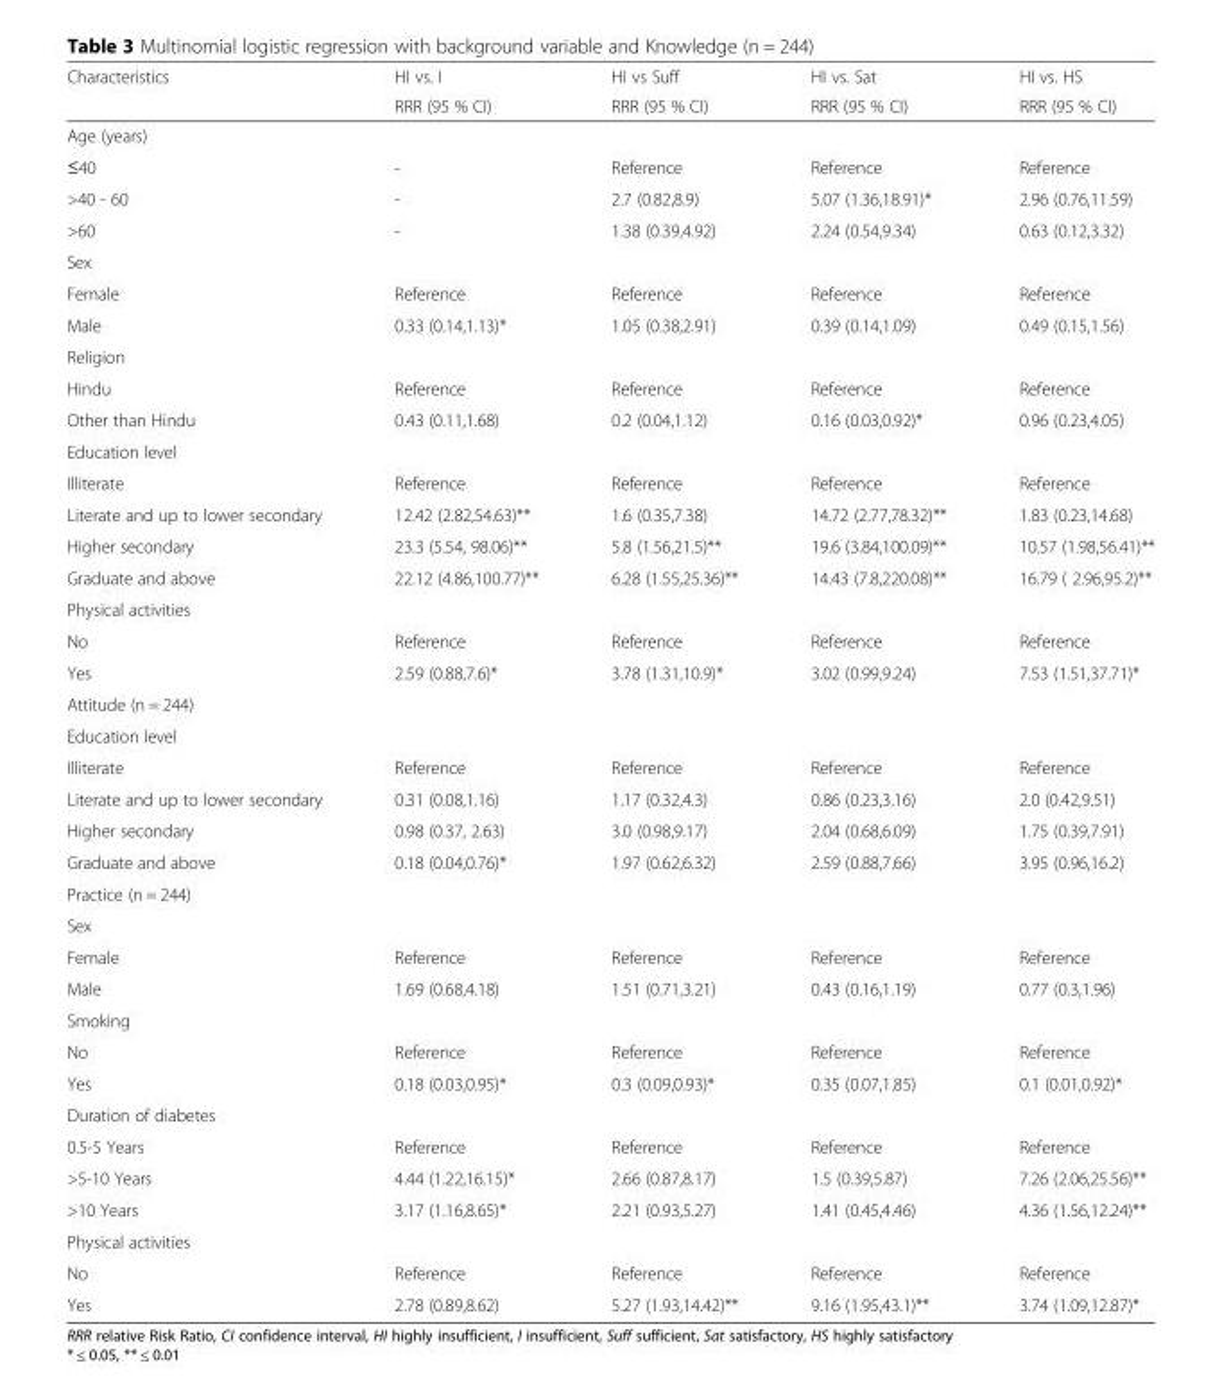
<table><thead><tr><td rowspan="2">Characteristics</td><td rowspan="2">HI vs. I RRR (95 % CI)</td><td rowspan="2">HI vs Suff RRR (95 % CI)</td><td rowspan="2">HI vs. Sat RRR (95 % CI)</td><td rowspan="2">HI vs. HS RRR (95 % CI)</td></tr><tr></tr></thead><tbody><tr><td colspan="5">Age (years)</td></tr><tr><td>≤40</td><td>-</td><td>Reference</td><td>Reference</td><td>Reference</td></tr><tr><td>&gt;40 - 60</td><td>-</td><td>2.7 (0.82,8.9)</td><td>5.07 (1.36,18.91)*</td><td>2.96 (0.76,11.59)</td></tr><tr><td>&gt;60</td><td>-</td><td>1.38 (0.39,4.92)</td><td>2.24 (0.54,9.34)</td><td>0.63 (0.12,3.32)</td></tr><tr><td colspan="5">Sex</td></tr><tr><td>Female</td><td>Reference</td><td>Reference</td><td>Reference</td><td>Reference</td></tr><tr><td>Male</td><td>0.33 (0.14,1.13)*</td><td>1.05 (0.38,2.91)</td><td>0.39 (0.14,1.09)</td><td>0.49 (0.15,1.56)</td></tr><tr><td colspan="5">Religion</td></tr><tr><td>Hindu</td><td>Reference</td><td>Reference</td><td>Reference</td><td>Reference</td></tr><tr><td>Other than Hindu</td><td>0.43 (0.11,1.68)</td><td>0.2 (0.04,1.12)</td><td>0.16 (0.03,0.92)*</td><td>0.96 (0.23,4.05)</td></tr><tr><td colspan="5">Education level</td></tr><tr><td>Illiterate</td><td>Reference</td><td>Reference</td><td>Reference</td><td>Reference</td></tr><tr><td>Literate and up to lower secondary</td><td>12.42 (2.82,54.63)**</td><td>1.6 (0.35,7.38)</td><td>14.72 (2.77,78.32)**</td><td>1.83 (0.23,14.68)</td></tr><tr><td>Higher secondary</td><td>23.3 (5.54, 98.06)**</td><td>5.8 (1.56,21.5)**</td><td>19.6 (3.84,100.09)**</td><td>10.57 (1.98,56.41)**</td></tr><tr><td>Graduate and above</td><td>22.12 (4.86,100.77)**</td><td>6.28 (1.55,25.36)**</td><td>14.43 (7.8,220.08)**</td><td>16.79 ( 2.96,95.2)**</td></tr><tr><td colspan="5">Physical activities</td></tr><tr><td>No</td><td>Reference</td><td>Reference</td><td>Reference</td><td>Reference</td></tr><tr><td>Yes</td><td>2.59 (0.88,7.6)*</td><td>3.78 (1.31,10.9)*</td><td>3.02 (0.99,9.24)</td><td>7.53 (1.51,37.71)*</td></tr><tr><td colspan="5">Attitude (n = 244)</td></tr><tr><td colspan="5">Education level</td></tr><tr><td>Illiterate</td><td>Reference</td><td>Reference</td><td>Reference</td><td>Reference</td></tr><tr><td>Literate and up to lower secondary</td><td>0.31 (0.08,1.16)</td><td>1.17 (0.32,4.3)</td><td>0.86 (0.23,3.16)</td><td>2.0 (0.42,9.51)</td></tr><tr><td>Higher secondary</td><td>0.98 (0.37, 2.63)</td><td>3.0 (0.98,9.17)</td><td>2.04 (0.68,6.09)</td><td>1.75 (0.39,7.91)</td></tr><tr><td>Graduate and above</td><td>0.18 (0.04,0.76)*</td><td>1.97 (0.62,6.32)</td><td>2.59 (0.88,7.66)</td><td>3.95 (0.96,16.2)</td></tr><tr><td colspan="5">Practice (n = 244)</td></tr><tr><td colspan="5">Sex</td></tr><tr><td>Female</td><td>Reference</td><td>Reference</td><td>Reference</td><td>Reference</td></tr><tr><td>Male</td><td>1.69 (0.68,4.18)</td><td>1.51 (0.71,3.21)</td><td>0.43 (0.16,1.19)</td><td>0.77 (0.3,1.96)</td></tr><tr><td colspan="5">Smoking</td></tr><tr><td>No</td><td>Reference</td><td>Reference</td><td>Reference</td><td>Reference</td></tr><tr><td>Yes</td><td>0.18 (0.03,0.95)*</td><td>0.3 (0.09,0.93)*</td><td>0.35 (0.07,1.85)</td><td>0.1 (0.01,0.92)*</td></tr><tr><td colspan="5">Duration of diabetes</td></tr><tr><td>0.5-5 Years</td><td>Reference</td><td>Reference</td><td>Reference</td><td>Reference</td></tr><tr><td>&gt;5-10 Years</td><td>4.44 (1.22,16.15)*</td><td>2.66 (0.87,8.17)</td><td>1.5 (0.39,5.87)</td><td>7.26 (2.06,25.56)**</td></tr><tr><td>&gt;10 Years</td><td>3.17 (1.16,8.65)*</td><td>2.21 (0.93,5.27)</td><td>1.41 (0.45,4.46)</td><td>4.36 (1.56,12.24)**</td></tr><tr><td colspan="5">Physical activities</td></tr><tr><td>No</td><td>Reference</td><td>Reference</td><td>Reference</td><td>Reference</td></tr><tr><td>Yes</td><td>2.78 (0.89,8.62)</td><td>5.27 (1.93,14.42)**</td><td>9.16 (1.95,43.1)**</td><td>3.74 (1.09,12.87)*</td></tr></tbody></table>